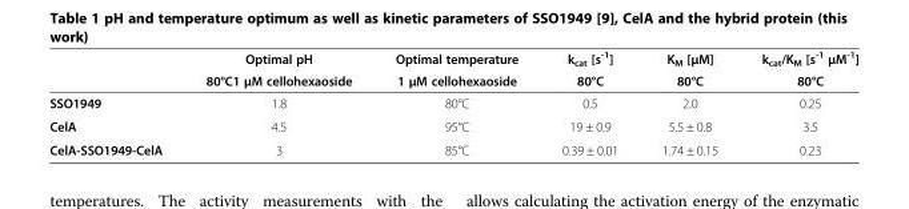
<table><thead><tr><td rowspan="2"></td><td rowspan="2">Optimal pH 80°C1 μM cellohexaoside</td><td rowspan="2">Optimal temperature 1 μM cellohexaoside</td><td rowspan="2">kcat [s-1] 80°C</td><td rowspan="2">KM [μM] 80°C</td><td rowspan="2">kcat/KM [s-1 μM-1] 80°C</td></tr><tr></tr></thead><tbody><tr><td>SSO1949</td><td>1.8</td><td>80°C</td><td>0.5</td><td>2.0</td><td>0.25</td></tr><tr><td>CelA</td><td>4.5</td><td>95°C</td><td>19 ± 0.9</td><td>5.5 ± 0.8</td><td>3.5</td></tr><tr><td>CelA-SSO1949-CelA</td><td>3</td><td>85°C</td><td>0.39 ± 0.01</td><td>1.74 ± 0.15</td><td>0.23</td></tr></tbody></table>